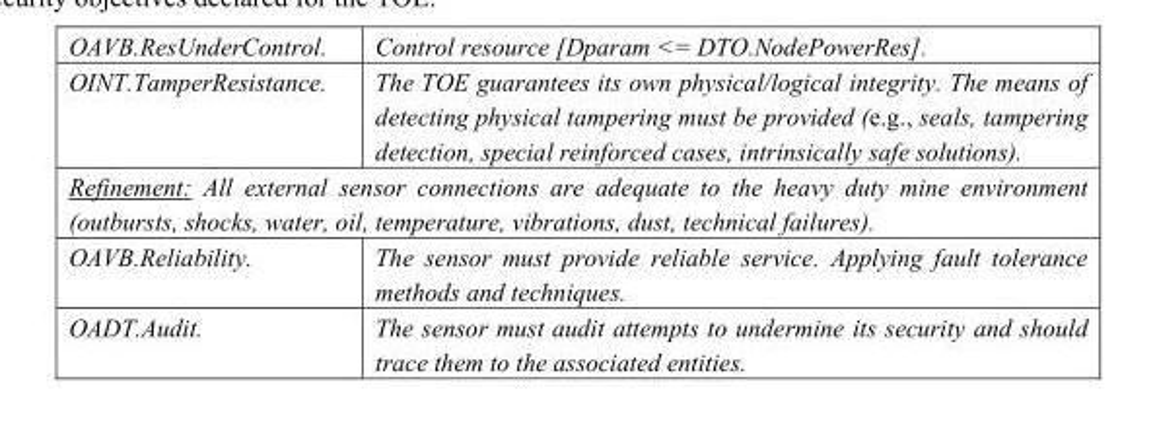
<table><tbody><tr><td>OINT.TamperResistance.</td><td>The TOE guarantees its own physical/logical integrity. The means of detecting physical tampering must be provided (e.g., seals, tampering detection, special reinforced cases, intrinsically safe solutions).</td></tr><tr><td colspan="2">Refinement: All external sensor connections are adequate to the heavy duty mine environment (outbursts, shocks, water, oil, temperature, vibrations, dust, technical failures).</td></tr><tr><td>OAVB.Reliability.</td><td>The sensor must provide reliable service. Applying fault tolerance methods and techniques.</td></tr><tr><td>OADT.Audit.</td><td>The sensor must audit attempts to undermine its security and should trace them to the associated entities.</td></tr></tbody></table>